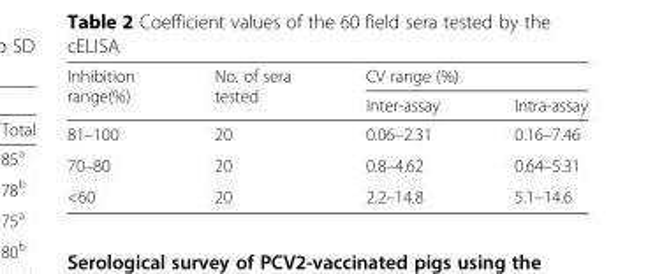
<table><thead><tr><td rowspan="2">Inhibition range(%)</td><td rowspan="2">No. of sera tested</td><td colspan="2">CV range (%)</td></tr><tr><td>Inter-assay</td><td>Intra-assay</td></tr></thead><tbody><tr><td>81–100</td><td>20</td><td>0.06–2.31</td><td>0.16–7.46</td></tr><tr><td>70–80</td><td>20</td><td>0.8–4.62</td><td>0.64–5.31</td></tr><tr><td>&lt;60</td><td>20</td><td>2.2–14.8</td><td>5.1–14.6</td></tr></tbody></table>